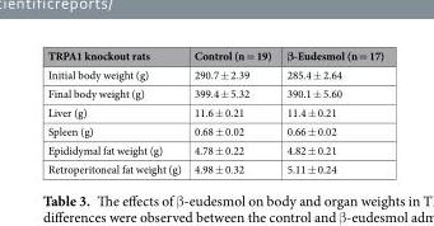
<table><thead><tr><td>TRPA1 knockout rats</td><td>Control (n = 19)</td><td>β-Eudesmol (n = 17)</td></tr></thead><tbody><tr><td>Initial body weight (g)</td><td>290.7 ± 2.39</td><td>285.4 ± 2.64</td></tr><tr><td>Final body weight (g)</td><td>399.4 ± 5.32</td><td>390.1 ± 5.60</td></tr><tr><td>Liver (g)</td><td>11.6 ± 0.21</td><td>11.4 ± 0.21</td></tr><tr><td>Spleen (g)</td><td>0.68 ± 0.02</td><td>0.66 ± 0.02</td></tr><tr><td>Epididymal fat weight (g)</td><td>4.78 ± 0.22</td><td>4.82 ± 0.21</td></tr><tr><td>Retroperitoneal fat weight (g)</td><td>4.98 ± 0.32</td><td>5.11 ± 0.24</td></tr></tbody></table>